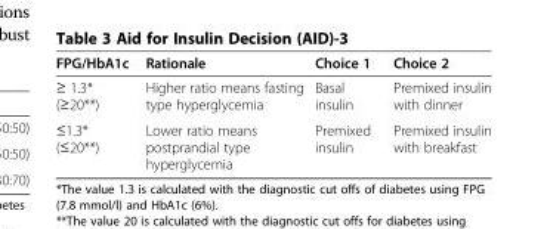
<table><thead><tr><td>FPG/HbA1c</td><td>Rationale</td><td>Choice 1</td><td>Choice 2</td></tr></thead><tbody><tr><td>≥ 1.3* (≥20**)</td><td>Higher ratio means fasting type hyperglycemia</td><td>Basal insulin</td><td>Premixed insulin with dinner</td></tr><tr><td>≤1.3* (≤20**)</td><td>Lower ratio means postprandial type hyperglycemia</td><td>Premixed insulin</td><td>Premixed insulin with breakfast</td></tr></tbody></table>